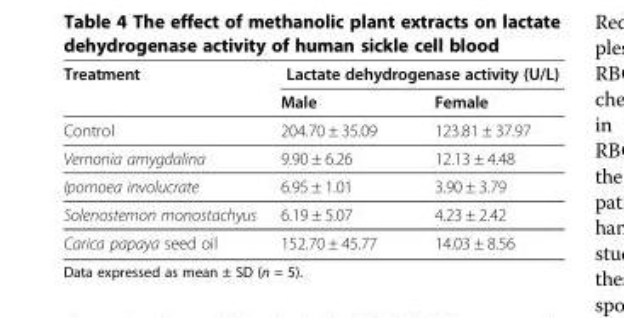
<table><thead><tr><td rowspan="2">Treatment</td><td colspan="2">Lactate dehydrogenase activity (U/L)</td></tr><tr><td>Male</td><td>Female</td></tr></thead><tbody><tr><td>Control</td><td>204.70 ± 35.09</td><td>123.81 ± 37.97</td></tr><tr><td>Vernonia amygdalina</td><td>9.90 ± 6.26</td><td>12.13 ± 4.48</td></tr><tr><td>Ipomoea involucrate</td><td>6.95 ± 1.01</td><td>3.90 ± 3.79</td></tr><tr><td>Solenostemon monostachyus</td><td>6.19 ± 5.07</td><td>4.23 ± 2.42</td></tr><tr><td>Carica papaya seed oil</td><td>152.70 ± 45.77</td><td>14.03 ± 8.56</td></tr></tbody></table>